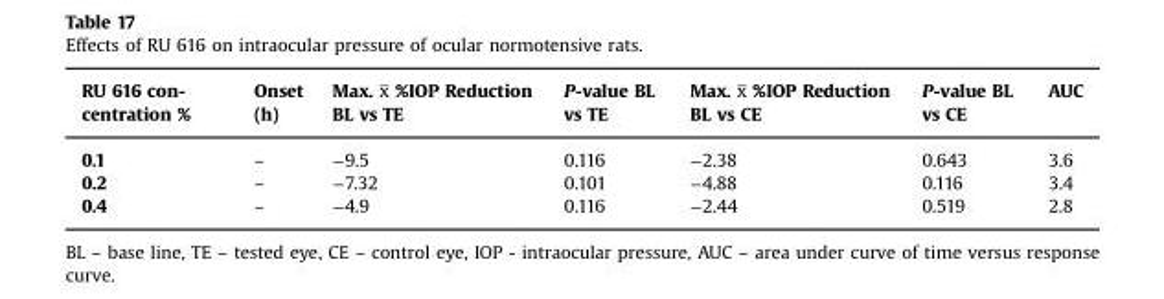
<table><thead><tr><td>RU 616 con- centration %</td><td>Onset (h)</td><td>Max. x̅ %IOP Reduction BL vs TE</td><td>P-value BL vs TE</td><td>Max. x̅ %IOP Reduction BL vs CE</td><td>P-value BL vs CE</td><td>AUC</td></tr></thead><tbody><tr><td>0.1</td><td>–</td><td>−9.5</td><td>0.116</td><td>−2.38</td><td>0.643</td><td>3.6</td></tr><tr><td>0.2</td><td>–</td><td>−7.32</td><td>0.101</td><td>−4.88</td><td>0.116</td><td>3.4</td></tr><tr><td>0.4</td><td>–</td><td>−4.9</td><td>0.116</td><td>−2.44</td><td>0.519</td><td>2.8</td></tr></tbody></table>